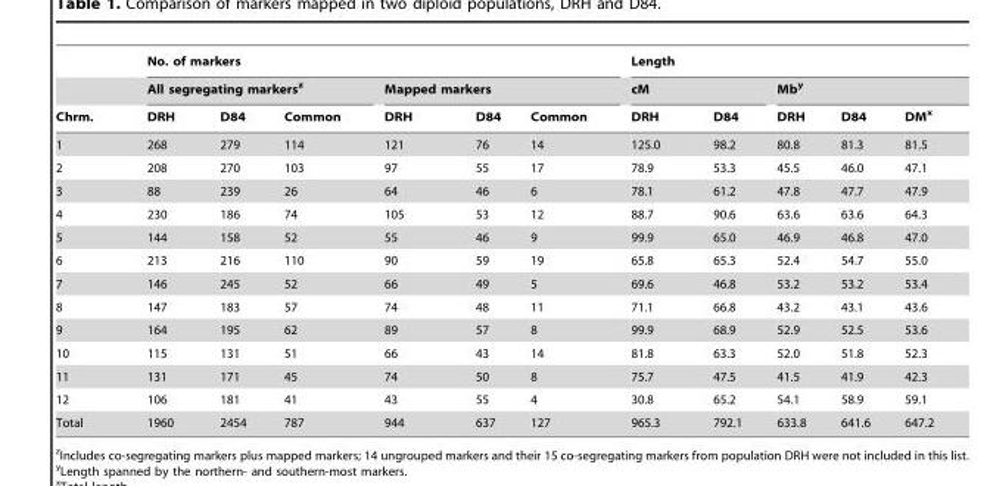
<table><thead><tr><td rowspan="3">Chrm.</td><td colspan="6">No. of markers</td><td colspan="5">Length</td></tr><tr><td colspan="3">All segregating markers<sup>z</sup></td><td colspan="3">Mapped markers</td><td colspan="2">cM</td><td colspan="3">Mb<sup>y</sup></td></tr><tr><td>DRH</td><td>D84</td><td>Common</td><td>DRH</td><td>D84</td><td>Common</td><td>DRH</td><td>D84</td><td>DRH</td><td>D84</td><td>DM<sup>x</sup></td></tr></thead><tbody><tr><td>1</td><td>268</td><td>279</td><td>114</td><td>121</td><td>76</td><td>14</td><td>125.0</td><td>98.2</td><td>80.8</td><td>81.3</td><td>81.5</td></tr><tr><td>2</td><td>208</td><td>270</td><td>103</td><td>97</td><td>55</td><td>17</td><td>78.9</td><td>53.3</td><td>45.5</td><td>46.0</td><td>47.1</td></tr><tr><td>3</td><td>88</td><td>239</td><td>26</td><td>64</td><td>46</td><td>6</td><td>78.1</td><td>61.2</td><td>47.8</td><td>47.7</td><td>47.9</td></tr><tr><td>4</td><td>230</td><td>186</td><td>74</td><td>105</td><td>53</td><td>12</td><td>88.7</td><td>90.6</td><td>63.6</td><td>63.6</td><td>64.3</td></tr><tr><td>5</td><td>144</td><td>158</td><td>52</td><td>55</td><td>46</td><td>9</td><td>99.9</td><td>65.0</td><td>46.9</td><td>46.8</td><td>47.0</td></tr><tr><td>6</td><td>213</td><td>216</td><td>110</td><td>90</td><td>59</td><td>19</td><td>65.8</td><td>65.3</td><td>52.4</td><td>54.7</td><td>55.0</td></tr><tr><td>7</td><td>146</td><td>245</td><td>52</td><td>66</td><td>49</td><td>5</td><td>69.6</td><td>46.8</td><td>53.2</td><td>53.2</td><td>53.4</td></tr><tr><td>8</td><td>147</td><td>183</td><td>57</td><td>74</td><td>48</td><td>11</td><td>71.1</td><td>66.8</td><td>43.2</td><td>43.1</td><td>43.6</td></tr><tr><td>9</td><td>164</td><td>195</td><td>62</td><td>89</td><td>57</td><td>8</td><td>99.9</td><td>68.9</td><td>52.9</td><td>52.5</td><td>53.6</td></tr><tr><td>10</td><td>115</td><td>131</td><td>51</td><td>66</td><td>43</td><td>14</td><td>81.8</td><td>63.3</td><td>52.0</td><td>51.8</td><td>52.3</td></tr><tr><td>11</td><td>131</td><td>171</td><td>45</td><td>74</td><td>50</td><td>8</td><td>75.7</td><td>47.5</td><td>41.5</td><td>41.9</td><td>42.3</td></tr><tr><td>12</td><td>106</td><td>181</td><td>41</td><td>43</td><td>55</td><td>4</td><td>30.8</td><td>65.2</td><td>54.1</td><td>58.9</td><td>59.1</td></tr><tr><td>Total</td><td>1960</td><td>2454</td><td>787</td><td>944</td><td>637</td><td>127</td><td>965.3</td><td>792.1</td><td>633.8</td><td>641.6</td><td>647.2</td></tr></tbody></table>